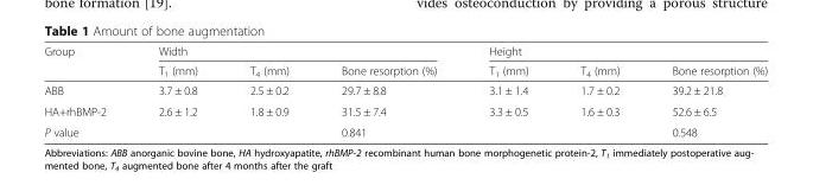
<table><thead><tr><td rowspan="2">Group</td><td colspan="3">Width</td><td colspan="3">Height</td></tr><tr><td>T<sub>1</sub> (mm)</td><td>T<sub>4</sub> (mm)</td><td>Bone resorption (%)</td><td>T<sub>1</sub> (mm)</td><td>T<sub>4</sub> (mm)</td><td>Bone resorption (%)</td></tr></thead><tbody><tr><td>ABB</td><td>3.7 ± 0.8</td><td>2.5 ± 0.2</td><td>29.7 ± 8.8</td><td>3.1 ± 1.4</td><td>1.7 ± 0.2</td><td>39.2 ± 21.8</td></tr><tr><td>HA+rhBMP-2</td><td>2.6 ± 1.2</td><td>1.8 ± 0.9</td><td>31.5 ± 7.4</td><td>3.3 ± 0.5</td><td>1.6 ± 0.3</td><td>52.6 ± 6.5</td></tr><tr><td>P value</td><td></td><td></td><td>0.841</td><td></td><td></td><td>0.548</td></tr></tbody></table>